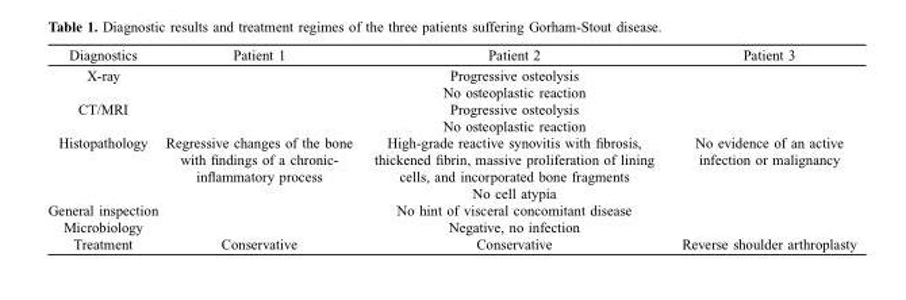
<table><thead><tr><td>Diagnostics</td><td>Patient 1</td><td>Patient 2</td><td>Patient 3</td></tr></thead><tbody><tr><td rowspan="2">X-ray</td><td colspan="3">Progressive osteolysis</td></tr><tr><td colspan="3">No osteoplastic reaction</td></tr><tr><td rowspan="2">CT/MRI</td><td colspan="3">Progressive osteolysis</td></tr><tr><td colspan="3">No osteoplastic reaction</td></tr><tr><td rowspan="2">Histopathology</td><td>Regressive changes of the bone with findings of a chronic- inflammatory process</td><td>High-grade reactive synovitis with fibrosis, thickened fibrin, massive proliferation of lining cells, and incorporated bone fragments</td><td>No evidence of an active infection or malignancy</td></tr><tr><td colspan="3">No cell atypia</td></tr><tr><td>General inspection</td><td colspan="3">No hint of visceral concomitant disease</td></tr><tr><td>Microbiology</td><td colspan="3">Negative, no infection</td></tr><tr><td>Treatment</td><td>Conservative</td><td>Conservative</td><td>Reverse shoulder arthroplasty</td></tr></tbody></table>